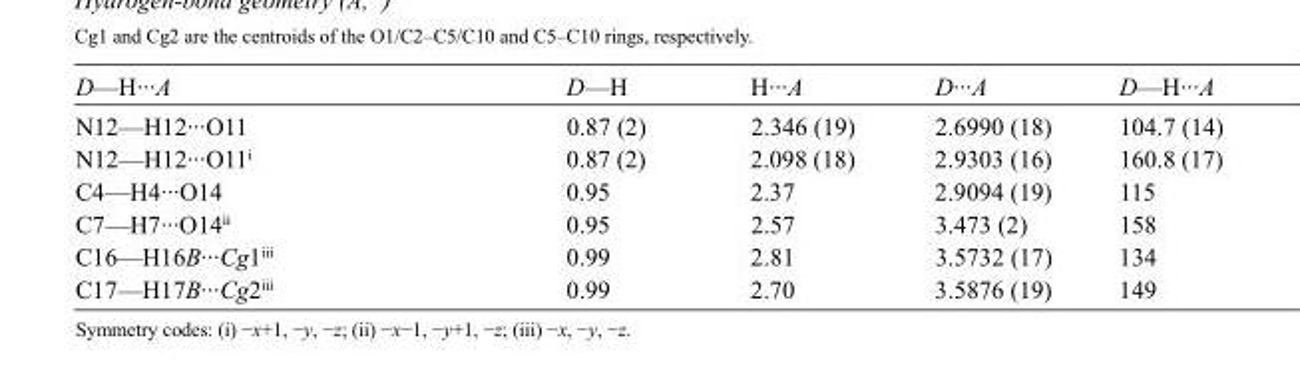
<table><tbody><tr><td>D—H···A</td><td>D—H</td><td>H···A</td><td>D···A</td><td>D—H···A</td></tr><tr><td>N12—H12···O11</td><td>0.87 (2)</td><td>2.346 (19)</td><td>2.6990 (18)</td><td>104.7 (14)</td></tr><tr><td>N12—H12···O11<sup>i</sup></td><td>0.87 (2)</td><td>2.098 (18)</td><td>2.9303 (16)</td><td>160.8 (17)</td></tr><tr><td>C4—H4···O14</td><td>0.95</td><td>2.37</td><td>2.9094 (19)</td><td>115</td></tr><tr><td>C7—H7···O14<sup>ii</sup></td><td>0.95</td><td>2.57</td><td>3.473 (2)</td><td>158</td></tr><tr><td>C16—H16B···Cg1<sup>iii</sup></td><td>0.99</td><td>2.81</td><td>3.5732 (17)</td><td>134</td></tr><tr><td>C17—H17B···Cg2<sup>iii</sup></td><td>0.99</td><td>2.70</td><td>3.5876 (19)</td><td>149</td></tr></tbody></table>